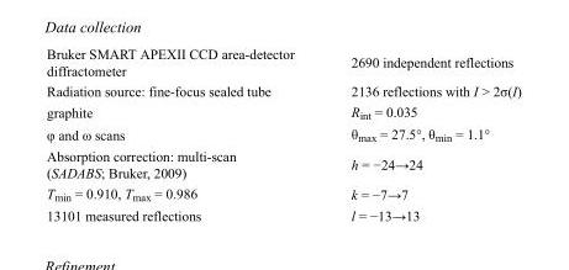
<table><tbody><tr><td>Bruker SMART APEXII CCD area-detector diffractometer</td><td>2690 independent reflections</td></tr><tr><td>Radiation source: fine-focus sealed tube</td><td>2136 reflections with I &gt; 2σ(I)</td></tr><tr><td>graphite</td><td>R<sub>int</sub> = 0.035</td></tr><tr><td>φ and ω scans</td><td>θ<sub>max</sub> = 27.5°, θ<sub>min</sub> = 1.1°</td></tr><tr><td>Absorption correction: multi-scan (SADABS; Bruker, 2009)</td><td>h = −24→24</td></tr><tr><td>T<sub>min</sub> = 0.910, T<sub>max</sub> = 0.986</td><td>k = −7→7</td></tr><tr><td>13101 measured reflections</td><td>l = −13→13</td></tr></tbody></table>